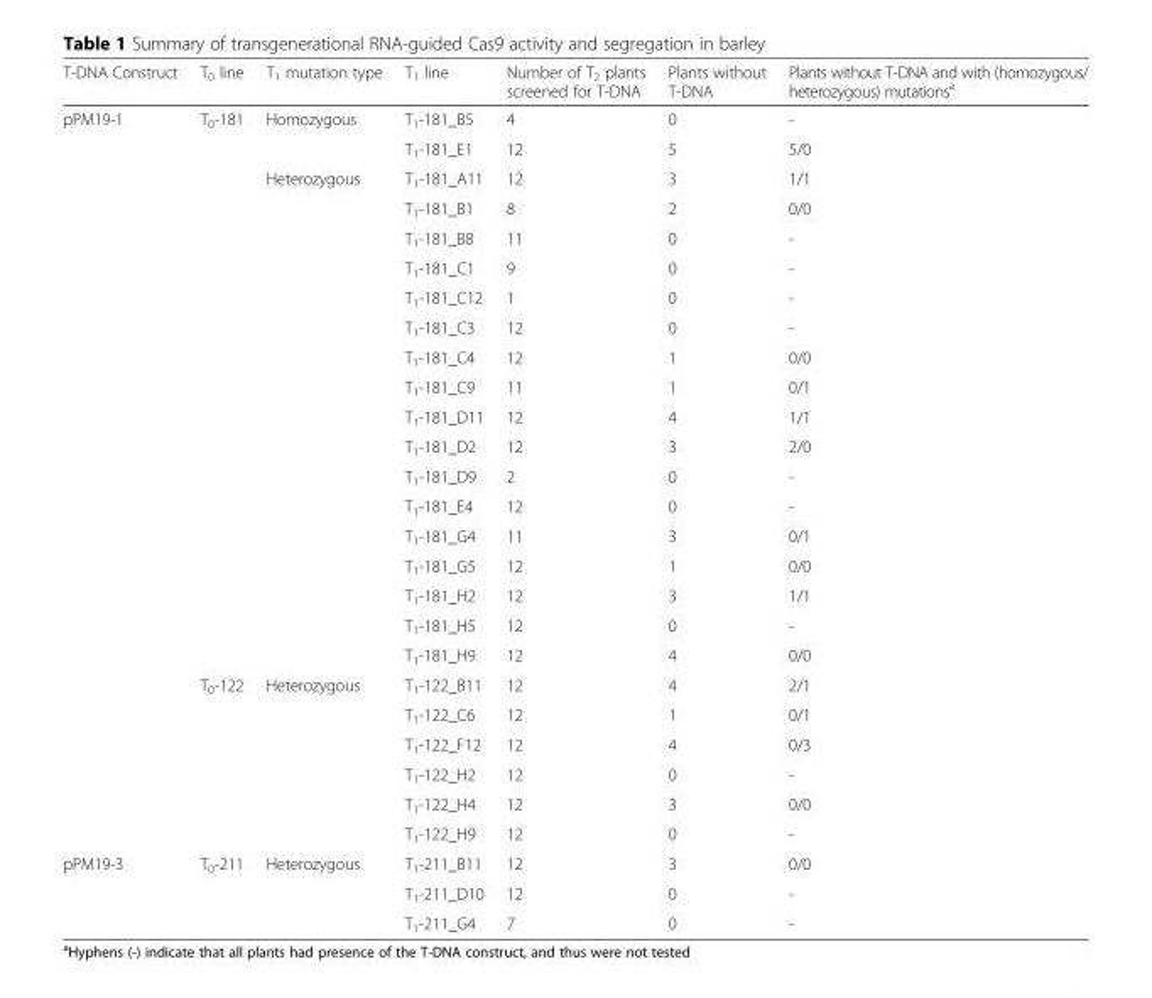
<table><thead><tr><td>T-DNA Construct</td><td>T<sub>0</sub> line</td><td>T<sub>1</sub> mutation type</td><td>T<sub>1</sub> line</td><td>Number of T<sub>2</sub> plants screened for T-DNA</td><td>Plants without T-DNA</td><td>Plants without T-DNA and with (homozygous/ heterozygous) mutations<sup>a</sup></td></tr></thead><tbody><tr><td rowspan="25">pPM19-1</td><td>T<sub>0</sub>-181</td><td>Homozygous</td><td>T<sub>1</sub>-181_B5</td><td>4</td><td>0</td><td>-</td></tr><tr><td></td><td></td><td>T<sub>1</sub>-181_E1</td><td>12</td><td>5</td><td>5/0</td></tr><tr><td></td><td>Heterozygous</td><td>T<sub>1</sub>-181_A11</td><td>12</td><td>3</td><td>1/1</td></tr><tr><td></td><td></td><td>T<sub>1</sub>-181_B1</td><td>8</td><td>2</td><td>0/0</td></tr><tr><td></td><td></td><td>T<sub>1</sub>-181_B8</td><td>11</td><td>0</td><td>-</td></tr><tr><td></td><td></td><td>T<sub>1</sub>-181_C1</td><td>9</td><td>0</td><td>-</td></tr><tr><td></td><td></td><td>T<sub>1</sub>-181_C12</td><td>1</td><td>0</td><td>-</td></tr><tr><td></td><td></td><td>T<sub>1</sub>-181_C3</td><td>12</td><td>0</td><td>-</td></tr><tr><td></td><td></td><td>T<sub>1</sub>-181_C4</td><td>12</td><td>1</td><td>0/0</td></tr><tr><td></td><td></td><td>T<sub>1</sub>-181_C9</td><td>11</td><td>1</td><td>0/1</td></tr><tr><td></td><td></td><td>T<sub>1</sub>-181_D11</td><td>12</td><td>4</td><td>1/1</td></tr><tr><td></td><td></td><td>T<sub>1</sub>-181_D2</td><td>12</td><td>3</td><td>2/0</td></tr><tr><td></td><td></td><td>T<sub>1</sub>-181_D9</td><td>2</td><td>0</td><td>-</td></tr><tr><td></td><td></td><td>T<sub>1</sub>-181_E4</td><td>12</td><td>0</td><td>-</td></tr><tr><td></td><td></td><td>T<sub>1</sub>-181_G4</td><td>11</td><td>3</td><td>0/1</td></tr><tr><td></td><td></td><td>T<sub>1</sub>-181_G5</td><td>12</td><td>1</td><td>0/0</td></tr><tr><td></td><td></td><td>T<sub>1</sub>-181_H2</td><td>12</td><td>3</td><td>1/1</td></tr><tr><td></td><td></td><td>T<sub>1</sub>-181_H5</td><td>12</td><td>0</td><td>-</td></tr><tr><td></td><td></td><td>T<sub>1</sub>-181_H9</td><td>12</td><td>4</td><td>0/0</td></tr><tr><td>T<sub>0</sub>-122</td><td>Heterozygous</td><td>T<sub>1</sub>-122_B11</td><td>12</td><td>4</td><td>2/1</td></tr><tr><td></td><td></td><td>T<sub>1</sub>-122_C6</td><td>12</td><td>1</td><td>0/1</td></tr><tr><td></td><td></td><td>T<sub>1</sub>-122_F12</td><td>12</td><td>4</td><td>0/3</td></tr><tr><td></td><td></td><td>T<sub>1</sub>-122_H2</td><td>12</td><td>0</td><td>-</td></tr><tr><td></td><td></td><td>T<sub>1</sub>-122_H4</td><td>12</td><td>3</td><td>0/0</td></tr><tr><td></td><td></td><td>T<sub>1</sub>-122_H9</td><td>12</td><td>0</td><td>-</td></tr><tr><td rowspan="3">pPM19-3</td><td>T<sub>0</sub>-211</td><td>Heterozygous</td><td>T<sub>1</sub>-211_B11</td><td>12</td><td>3</td><td>0/0</td></tr><tr><td></td><td></td><td>T<sub>1</sub>-211_D10</td><td>12</td><td>0</td><td>-</td></tr><tr><td></td><td></td><td>T<sub>1</sub>-211_G4</td><td>7</td><td>0</td><td>-</td></tr></tbody></table>